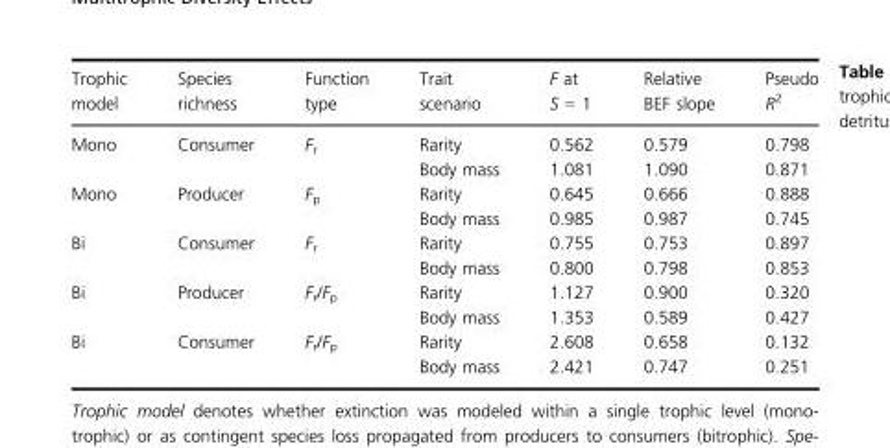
<table><thead><tr><td>Trophic model</td><td>Species richness</td><td>Function type</td><td>Trait scenario</td><td>F at S = 1</td><td>Relative BEF slope</td><td>Pseudo R<sup>2</sup></td></tr></thead><tbody><tr><td rowspan="2">Mono</td><td rowspan="2">Consumer</td><td rowspan="2">F<sub>r</sub></td><td>Rarity</td><td>0.562</td><td>0.579</td><td>0.798</td></tr><tr><td>Body mass</td><td>1.081</td><td>1.090</td><td>0.871</td></tr><tr><td rowspan="2">Mono</td><td rowspan="2">Producer</td><td rowspan="2">F<sub>p</sub></td><td>Rarity</td><td>0.645</td><td>0.666</td><td>0.888</td></tr><tr><td>Body mass</td><td>0.985</td><td>0.987</td><td>0.745</td></tr><tr><td rowspan="2">Bi</td><td rowspan="2">Consumer</td><td rowspan="2">F<sub>r</sub></td><td>Rarity</td><td>0.755</td><td>0.753</td><td>0.897</td></tr><tr><td>Body mass</td><td>0.800</td><td>0.798</td><td>0.853</td></tr><tr><td rowspan="2">Bi</td><td rowspan="2">Producer</td><td rowspan="2">F<sub>r</sub>/F<sub>p</sub></td><td>Rarity</td><td>1.127</td><td>0.900</td><td>0.320</td></tr><tr><td>Body mass</td><td>1.353</td><td>0.589</td><td>0.427</td></tr><tr><td rowspan="2">Bi</td><td rowspan="2">Consumer</td><td rowspan="2">F<sub>r</sub>/F<sub>p</sub></td><td>Rarity</td><td>2.608</td><td>0.658</td><td>0.132</td></tr><tr><td>Body mass</td><td>2.421</td><td>0.747</td><td>0.251</td></tr></tbody></table>